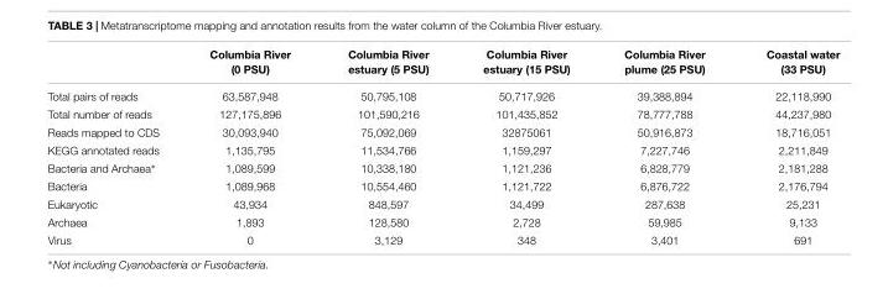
<table><thead><tr><td></td><td>Columbia River (0 PSU)</td><td>Columbia River estuary (5 PSU)</td><td>Columbia River estuary (15 PSU)</td><td>Columbia River plume (25 PSU)</td><td>Coastal water (33 PSU)</td></tr></thead><tbody><tr><td>Total pairs of reads</td><td>63,587,948</td><td>50,795,108</td><td>50,717,926</td><td>39,388,894</td><td>22,118,990</td></tr><tr><td>Total number of reads</td><td>127,175,896</td><td>101,590,216</td><td>101,435,852</td><td>78,777,788</td><td>44,237,980</td></tr><tr><td>Reads mapped to CDS</td><td>30,093,940</td><td>75,092,069</td><td>32875061</td><td>50,916,873</td><td>18,716,051</td></tr><tr><td>KEGG annotated reads</td><td>1,135,795</td><td>11,534,766</td><td>1,159,297</td><td>7,227,746</td><td>2,211,849</td></tr><tr><td>Bacteria and Archaea∗</td><td>1,089,599</td><td>10,338,180</td><td>1,121,236</td><td>6,828,779</td><td>2,181,288</td></tr><tr><td>Bacteria</td><td>1,089,968</td><td>10,554,460</td><td>1,121,722</td><td>6,876,722</td><td>2,176,794</td></tr><tr><td>Eukaryotic</td><td>43,934</td><td>848,597</td><td>34,499</td><td>287,638</td><td>25,231</td></tr><tr><td>Archaea</td><td>1,893</td><td>128,580</td><td>2,728</td><td>59,985</td><td>9,133</td></tr><tr><td>Virus</td><td>0</td><td>3,129</td><td>348</td><td>3,401</td><td>691</td></tr></tbody></table>